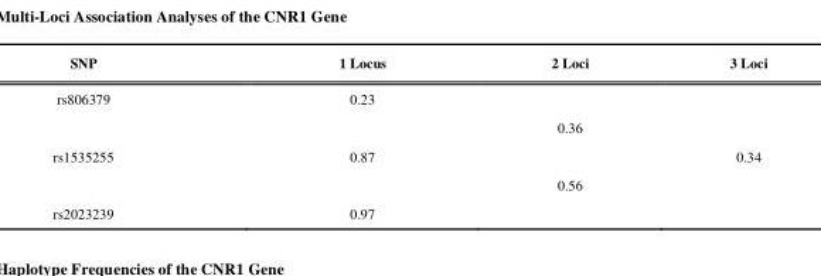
<table><thead><tr><td>SNP</td><td>1 Locus</td><td>2 Loci</td><td>3 Loci</td></tr></thead><tbody><tr><td rowspan="2">rs806379</td><td>0.23</td><td></td><td></td></tr><tr><td></td><td>0.36</td><td></td></tr><tr><td rowspan="2">rs1535255</td><td>0.87</td><td></td><td>0.34</td></tr><tr><td></td><td>0.56</td><td></td></tr><tr><td>rs2023239</td><td>0.97</td><td></td><td></td></tr></tbody></table>